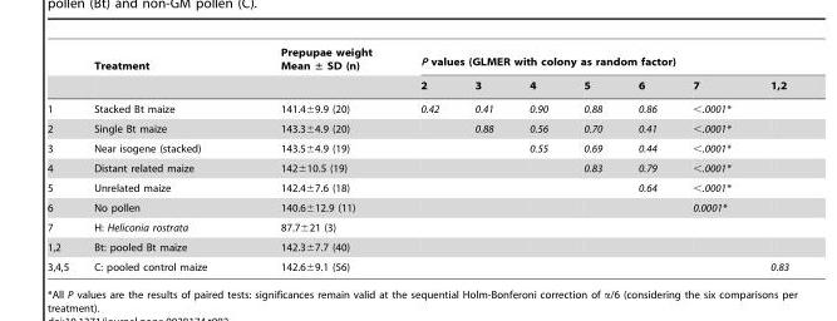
<table><thead><tr><td rowspan="2"></td><td rowspan="2">Treatment</td><td rowspan="2">Prepupae weight Mean ± SD (n)</td><td colspan="7">P values (GLMER with colony as random factor)</td></tr><tr><td>2</td><td>3</td><td>4</td><td>5</td><td>6</td><td>7</td><td>1,2</td></tr></thead><tbody><tr><td>1</td><td>Stacked Bt maize</td><td>141.4±9.9 (20)</td><td>0.42</td><td>0.41</td><td>0.90</td><td>0.88</td><td>0.86</td><td>&lt;.0001*</td><td></td></tr><tr><td>2</td><td>Single Bt maize</td><td>143.3±4.9 (20)</td><td></td><td>0.88</td><td>0.56</td><td>0.70</td><td>0.41</td><td>&lt;.0001*</td><td></td></tr><tr><td>3</td><td>Near isogene (stacked)</td><td>143.5±4.9 (19)</td><td></td><td></td><td>0.55</td><td>0.69</td><td>0.44</td><td>&lt;.0001*</td><td></td></tr><tr><td>4</td><td>Distant related maize</td><td>142±10.5 (19)</td><td></td><td></td><td></td><td>0.83</td><td>0.79</td><td>&lt;.0001*</td><td></td></tr><tr><td>5</td><td>Unrelated maize</td><td>142.4±7.6 (18)</td><td></td><td></td><td></td><td></td><td>0.64</td><td>&lt;.0001*</td><td></td></tr><tr><td>6</td><td>No pollen</td><td>140.6±12.9 (11)</td><td></td><td></td><td></td><td></td><td></td><td>0.0001*</td><td></td></tr><tr><td>7</td><td>H: Heliconia rostrata</td><td>87.7±21 (3)</td><td></td><td></td><td></td><td></td><td></td><td></td><td></td></tr><tr><td>1,2</td><td>Bt: pooled Bt maize</td><td>142.3±7.7 (40)</td><td></td><td></td><td></td><td></td><td></td><td></td><td></td></tr><tr><td>3,4,5</td><td>C: pooled control maize</td><td>142.6±9.1 (56)</td><td></td><td></td><td></td><td></td><td></td><td></td><td>0.83</td></tr></tbody></table>